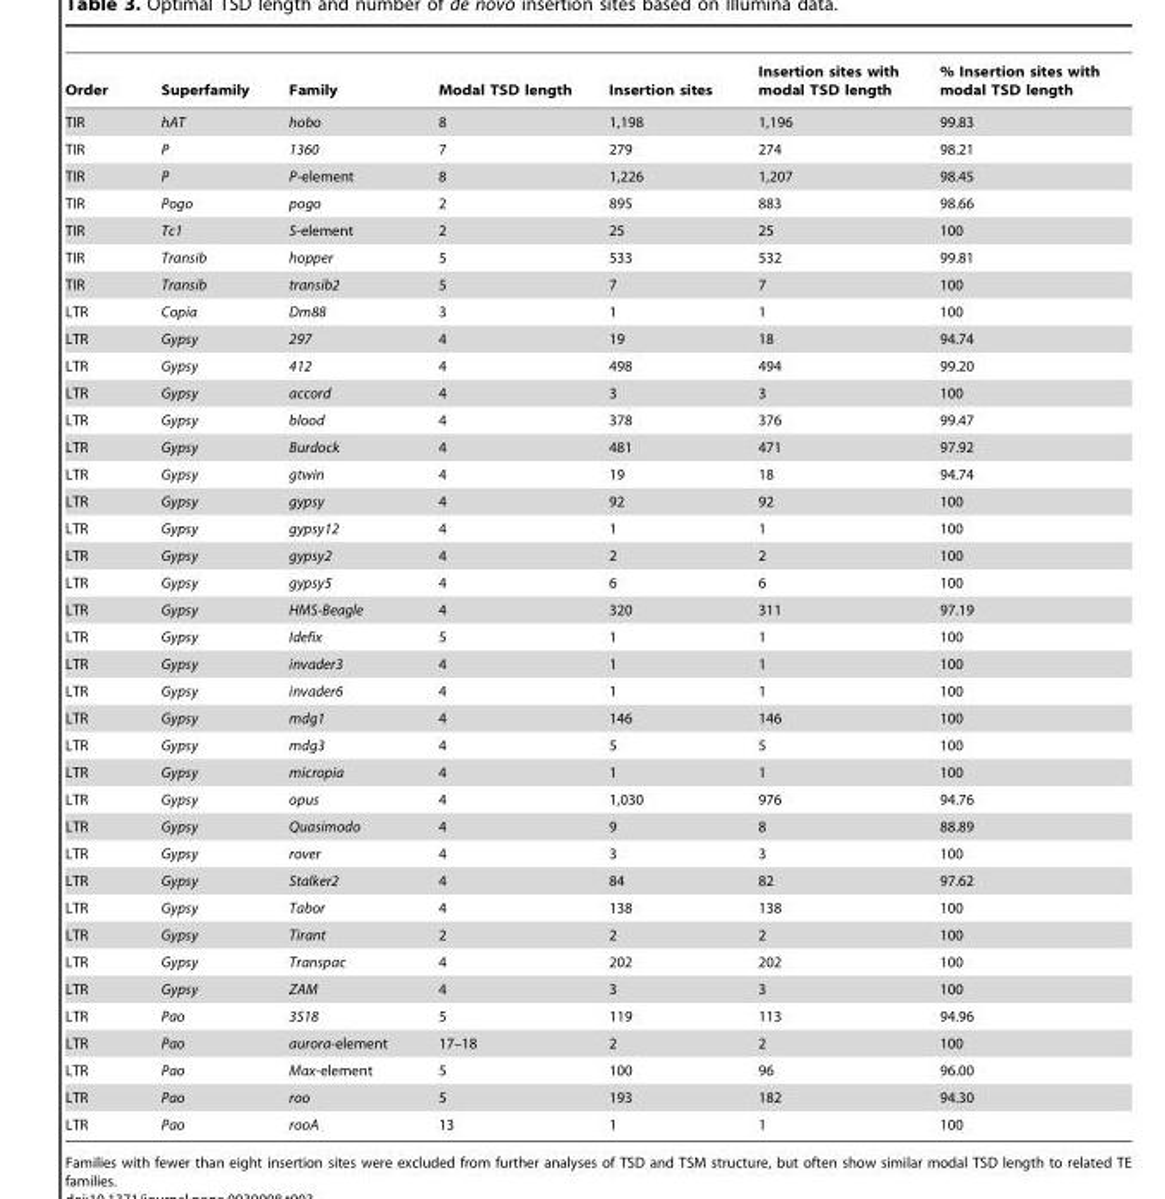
<table><thead><tr><td>Order</td><td>Superfamily</td><td>Family</td><td>Modal TSD length</td><td>Insertion sites</td><td>Insertion sites with modal TSD length</td><td>% Insertion sites with modal TSD length</td></tr></thead><tbody><tr><td>TIR</td><td>hAT</td><td>hobo</td><td>8</td><td>1,198</td><td>1,196</td><td>99.83</td></tr><tr><td>TIR</td><td>P</td><td>1360</td><td>7</td><td>279</td><td>274</td><td>98.21</td></tr><tr><td>TIR</td><td>P</td><td>P-element</td><td>8</td><td>1,226</td><td>1,207</td><td>98.45</td></tr><tr><td>TIR</td><td>Pogo</td><td>pogo</td><td>2</td><td>895</td><td>883</td><td>98.66</td></tr><tr><td>TIR</td><td>Tc1</td><td>S-element</td><td>2</td><td>25</td><td>25</td><td>100</td></tr><tr><td>TIR</td><td>Transib</td><td>hopper</td><td>5</td><td>533</td><td>532</td><td>99.81</td></tr><tr><td>TIR</td><td>Transib</td><td>transib2</td><td>5</td><td>7</td><td>7</td><td>100</td></tr><tr><td>LTR</td><td>Copia</td><td>Dm88</td><td>3</td><td>1</td><td>1</td><td>100</td></tr><tr><td>LTR</td><td>Gypsy</td><td>297</td><td>4</td><td>19</td><td>18</td><td>94.74</td></tr><tr><td>LTR</td><td>Gypsy</td><td>412</td><td>4</td><td>498</td><td>494</td><td>99.20</td></tr><tr><td>LTR</td><td>Gypsy</td><td>accord</td><td>4</td><td>3</td><td>3</td><td>100</td></tr><tr><td>LTR</td><td>Gypsy</td><td>blood</td><td>4</td><td>378</td><td>376</td><td>99.47</td></tr><tr><td>LTR</td><td>Gypsy</td><td>Burdock</td><td>4</td><td>481</td><td>471</td><td>97.92</td></tr><tr><td>LTR</td><td>Gypsy</td><td>gtwin</td><td>4</td><td>19</td><td>18</td><td>94.74</td></tr><tr><td>LTR</td><td>Gypsy</td><td>gypsy</td><td>4</td><td>92</td><td>92</td><td>100</td></tr><tr><td>LTR</td><td>Gypsy</td><td>gypsy12</td><td>4</td><td>1</td><td>1</td><td>100</td></tr><tr><td>LTR</td><td>Gypsy</td><td>gypsy2</td><td>4</td><td>2</td><td>2</td><td>100</td></tr><tr><td>LTR</td><td>Gypsy</td><td>gypsy5</td><td>4</td><td>6</td><td>6</td><td>100</td></tr><tr><td>LTR</td><td>Gypsy</td><td>HMS-Beagle</td><td>4</td><td>320</td><td>311</td><td>97.19</td></tr><tr><td>LTR</td><td>Gypsy</td><td>Idefix</td><td>5</td><td>1</td><td>1</td><td>100</td></tr><tr><td>LTR</td><td>Gypsy</td><td>invader3</td><td>4</td><td>1</td><td>1</td><td>100</td></tr><tr><td>LTR</td><td>Gypsy</td><td>invader6</td><td>4</td><td>1</td><td>1</td><td>100</td></tr><tr><td>LTR</td><td>Gypsy</td><td>mdg1</td><td>4</td><td>146</td><td>146</td><td>100</td></tr><tr><td>LTR</td><td>Gypsy</td><td>mdg3</td><td>4</td><td>5</td><td>5</td><td>100</td></tr><tr><td>LTR</td><td>Gypsy</td><td>micropia</td><td>4</td><td>1</td><td>1</td><td>100</td></tr><tr><td>LTR</td><td>Gypsy</td><td>opus</td><td>4</td><td>1,030</td><td>976</td><td>94.76</td></tr><tr><td>LTR</td><td>Gypsy</td><td>Quasimodo</td><td>4</td><td>9</td><td>8</td><td>88.89</td></tr><tr><td>LTR</td><td>Gypsy</td><td>rover</td><td>4</td><td>3</td><td>3</td><td>100</td></tr><tr><td>LTR</td><td>Gypsy</td><td>Stalker2</td><td>4</td><td>84</td><td>82</td><td>97.62</td></tr><tr><td>LTR</td><td>Gypsy</td><td>Tabor</td><td>4</td><td>138</td><td>138</td><td>100</td></tr><tr><td>LTR</td><td>Gypsy</td><td>Tirant</td><td>2</td><td>2</td><td>2</td><td>100</td></tr><tr><td>LTR</td><td>Gypsy</td><td>Transpac</td><td>4</td><td>202</td><td>202</td><td>100</td></tr><tr><td>LTR</td><td>Gypsy</td><td>ZAM</td><td>4</td><td>3</td><td>3</td><td>100</td></tr><tr><td>LTR</td><td>Pao</td><td>3S18</td><td>5</td><td>119</td><td>113</td><td>94.96</td></tr><tr><td>LTR</td><td>Pao</td><td>aurora-element</td><td>17–18</td><td>2</td><td>2</td><td>100</td></tr><tr><td>LTR</td><td>Pao</td><td>Max-element</td><td>5</td><td>100</td><td>96</td><td>96.00</td></tr><tr><td>LTR</td><td>Pao</td><td>roo</td><td>5</td><td>193</td><td>182</td><td>94.30</td></tr><tr><td>LTR</td><td>Pao</td><td>rooA</td><td>13</td><td>1</td><td>1</td><td>100</td></tr></tbody></table>